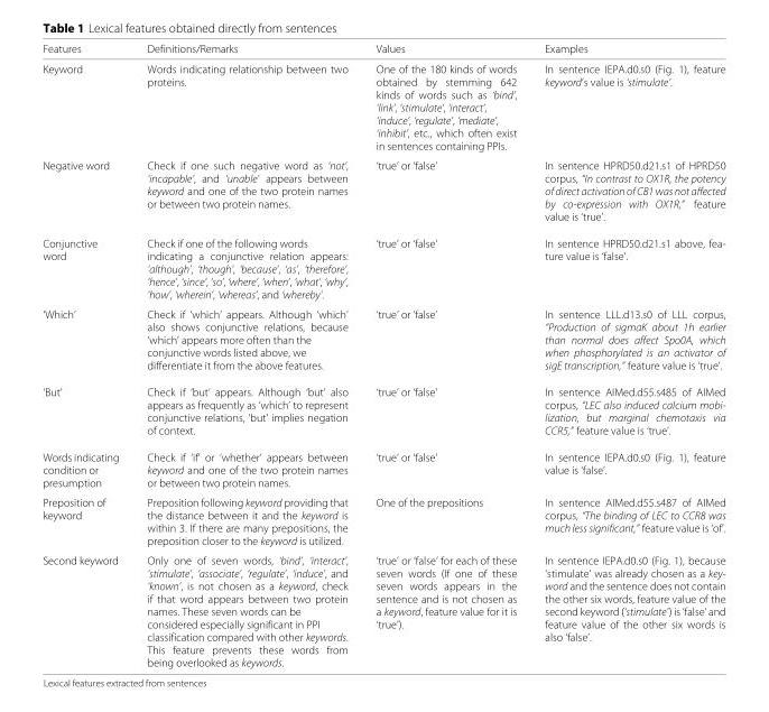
<table><thead><tr><td>Features</td><td>Definitions/Remarks</td><td>Values</td><td>Examples</td></tr></thead><tbody><tr><td>Keyword</td><td>Words indicating relationship between two proteins.</td><td>One of the 180 kinds of words obtained by stemming 642 kinds of words such as ‘bind’, ‘link’, ‘stimulate’, ‘interact’, ‘induce’, ‘regulate’, ‘mediate’, ‘inhibit’, etc., which often exist in sentences containing PPIs.</td><td>In sentence IEPA.d0.s0 (Fig. 1), feature keyword’s value is ‘stimulate’.</td></tr><tr><td>Negative word</td><td>Check if one such negative word as ‘not’, ‘incapable’, and ‘unable’ appears between keyword and one of the two protein names or between two protein names.</td><td>‘true’ or ‘false’</td><td>In sentence HPRD50.d21.s1 of HPRD50 corpus, “In contrast to OX1R, the potency of direct activation of CB1 was not affected by co-expression with OX1R,” feature value is ‘true’.</td></tr><tr><td>Conjunctive word</td><td>Check if one of the following words indicating a conjunctive relation appears: ‘although’, ‘though’, ‘because’, ‘as’, ‘therefore’, ‘hence’, ‘since’, ‘so’, ‘where’, ‘when’, ‘what’, ‘why’, ‘how’, ‘wherein’, ‘whereas’, and ‘whereby’.</td><td>‘true’ or ‘false’</td><td>In sentence HPRD50.d21.s1 above, fea- ture value is ‘false’.</td></tr><tr><td>‘Which’</td><td>Check if ‘which’ appears. Although ‘which’ also shows conjunctive relations, because ‘which’ appears more often than the conjunctive words listed above, we differentiate it from the above features.</td><td>‘true’ or ‘false’</td><td>In sentence LLL.d13.s0 of LLL corpus, “Production of sigmaK about 1h earlier than normal does affect Spo0A, which when phosphorylated is an activator of sigE transcription,” feature value is ‘true’.</td></tr><tr><td>‘But’</td><td>Check if ‘but’ appears. Although ‘but’ also appears as frequently as ‘which’ to represent conjunctive relations, ‘but’ implies negation of context.</td><td>‘true’ or ‘false’</td><td>In sentence AIMed.d55.s485 of AIMed corpus, “LEC also induced calcium mobi- lization, but marginal chemotaxis via CCR5,” feature value is ‘true’.</td></tr><tr><td>Words indicating condition or presumption</td><td>Check if ‘if’ or ‘whether’ appears between keyword and one of the two protein names or between two protein names.</td><td>‘true’ or ‘false’</td><td>In sentence IEPA.d0.s0 (Fig. 1), feature value is ‘false’.</td></tr><tr><td>Preposition of keyword</td><td>Preposition following keyword providing that the distance between it and the keyword is within 3. If there are many prepositions, the preposition closer to the keyword is utilized.</td><td>One of the prepositions</td><td>In sentence AIMed.d55.s487 of AIMed corpus, “The binding of LEC to CCR8 was much less significant,” feature value is ‘of’.</td></tr><tr><td>Second keyword</td><td>Only one of seven words, ‘bind’, ‘interact’, ‘stimulate’, ‘associate’, ‘regulate’, ‘induce’, and ‘known’, is not chosen as a keyword, check if that word appears between two protein names. These seven words can be considered especially significant in PPI classification compared with other keywords. This feature prevents these words from being overlooked as keywords.</td><td>‘true’ or ‘false’ for each of these seven words (If one of these seven words appears in the sentence and is not chosen as a keyword, feature value for it is ‘true’).</td><td>In sentence IEPA.d0.s0 (Fig. 1), because ‘stimulate’ was already chosen as a key- word and the sentence does not contain the other six words, feature value of the second keyword (‘stimulate’) is ‘false’ and feature value of the other six words is also ‘false’.</td></tr></tbody></table>